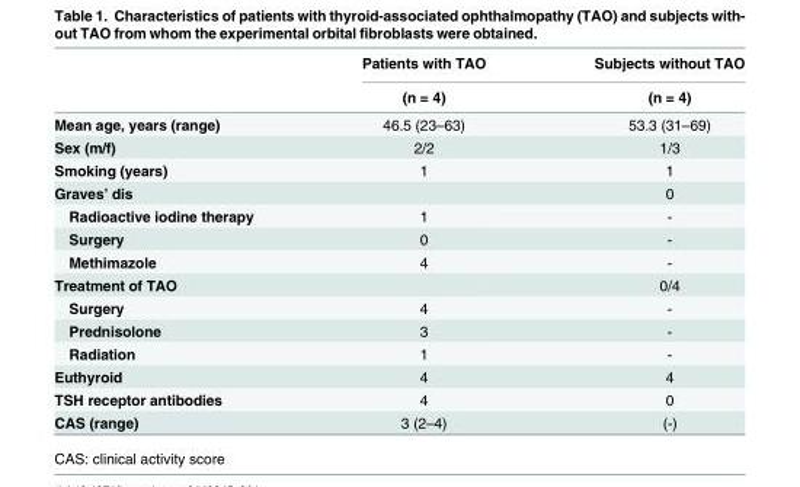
<table><thead><tr><td rowspan="2"></td><td rowspan="2">Patients with TAO (n = 4)</td><td rowspan="2">Subjects without TAO (n = 4)</td></tr><tr></tr></thead><tbody><tr><td>Mean age, years (range)</td><td>46.5 (23–63)</td><td>53.3 (31–69)</td></tr><tr><td>Sex (m/f)</td><td>2/2</td><td>1/3</td></tr><tr><td>Smoking (years)</td><td>1</td><td>1</td></tr><tr><td>Graves’ dis</td><td></td><td>0</td></tr><tr><td>Radioactive iodine therapy</td><td>1</td><td>-</td></tr><tr><td>Surgery</td><td>0</td><td>-</td></tr><tr><td>Methimazole</td><td>4</td><td>-</td></tr><tr><td>Treatment of TAO</td><td></td><td>0/4</td></tr><tr><td>Surgery</td><td>4</td><td>-</td></tr><tr><td>Prednisolone</td><td>3</td><td>-</td></tr><tr><td>Radiation</td><td>1</td><td>-</td></tr><tr><td>Euthyroid</td><td>4</td><td>4</td></tr><tr><td>TSH receptor antibodies</td><td>4</td><td>0</td></tr><tr><td>CAS (range)</td><td>3 (2–4)</td><td>(-)</td></tr></tbody></table>